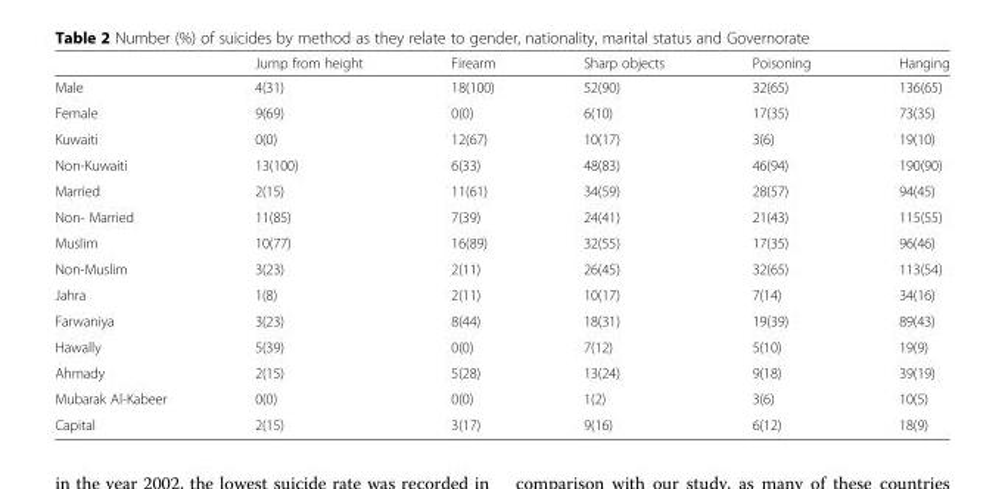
<table><thead><tr><td></td><td>Jump from height</td><td>Firearm</td><td>Sharp objects</td><td>Poisoning</td><td>Hanging</td></tr></thead><tbody><tr><td>Male</td><td>4(31)</td><td>18(100)</td><td>52(90)</td><td>32(65)</td><td>136(65)</td></tr><tr><td>Female</td><td>9(69)</td><td>0(0)</td><td>6(10)</td><td>17(35)</td><td>73(35)</td></tr><tr><td>Kuwaiti</td><td>0(0)</td><td>12(67)</td><td>10(17)</td><td>3(6)</td><td>19(10)</td></tr><tr><td>Non-Kuwaiti</td><td>13(100)</td><td>6(33)</td><td>48(83)</td><td>46(94)</td><td>190(90)</td></tr><tr><td>Married</td><td>2(15)</td><td>11(61)</td><td>34(59)</td><td>28(57)</td><td>94(45)</td></tr><tr><td>Non- Married</td><td>11(85)</td><td>7(39)</td><td>24(41)</td><td>21(43)</td><td>115(55)</td></tr><tr><td>Muslim</td><td>10(77)</td><td>16(89)</td><td>32(55)</td><td>17(35)</td><td>96(46)</td></tr><tr><td>Non-Muslim</td><td>3(23)</td><td>2(11)</td><td>26(45)</td><td>32(65)</td><td>113(54)</td></tr><tr><td>Jahra</td><td>1(8)</td><td>2(11)</td><td>10(17)</td><td>7(14)</td><td>34(16)</td></tr><tr><td>Farwaniya</td><td>3(23)</td><td>8(44)</td><td>18(31)</td><td>19(39)</td><td>89(43)</td></tr><tr><td>Hawally</td><td>5(39)</td><td>0(0)</td><td>7(12)</td><td>5(10)</td><td>19(9)</td></tr><tr><td>Ahmady</td><td>2(15)</td><td>5(28)</td><td>13(24)</td><td>9(18)</td><td>39(19)</td></tr><tr><td>Mubarak Al-Kabeer</td><td>0(0)</td><td>0(0)</td><td>1(2)</td><td>3(6)</td><td>10(5)</td></tr><tr><td>Capital</td><td>2(15)</td><td>3(17)</td><td>9(16)</td><td>6(12)</td><td>18(9)</td></tr></tbody></table>